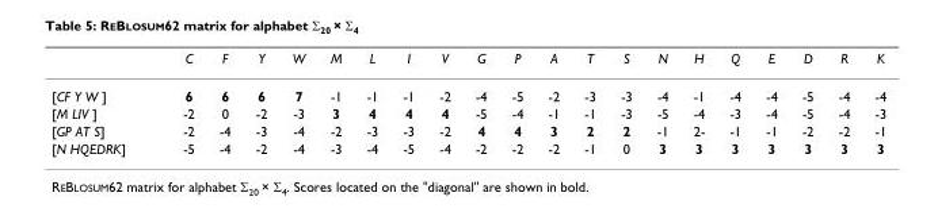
<table><thead><tr><td></td><td>C</td><td>F</td><td>Y</td><td>W</td><td>M</td><td>L</td><td>I</td><td>V</td><td>G</td><td>P</td><td>A</td><td>T</td><td>S</td><td>N</td><td>H</td><td>Q</td><td>E</td><td>D</td><td>R</td><td>K</td></tr></thead><tbody><tr><td>[CF Y W ]</td><td>6</td><td>6</td><td>6</td><td>7</td><td>-1</td><td>-1</td><td>-1</td><td>-2</td><td>-4</td><td>-5</td><td>-2</td><td>-3</td><td>-3</td><td>-4</td><td>-1</td><td>-4</td><td>-4</td><td>-5</td><td>-4</td><td>-4</td></tr><tr><td>[M LIV ]</td><td>-2</td><td>0</td><td>-2</td><td>-3</td><td>3</td><td>4</td><td>4</td><td>4</td><td>-5</td><td>-4</td><td>-1</td><td>-1</td><td>-3</td><td>-5</td><td>-4</td><td>-3</td><td>-4</td><td>-5</td><td>-4</td><td>-3</td></tr><tr><td>[GP AT S]</td><td>-2</td><td>-4</td><td>-3</td><td>-4</td><td>-2</td><td>-3</td><td>-3</td><td>-2</td><td>4</td><td>4</td><td>3</td><td>2</td><td>2</td><td>-1</td><td>2-</td><td>-1</td><td>-1</td><td>-2</td><td>-2</td><td>-1</td></tr><tr><td>[N HQEDRK]</td><td>-5</td><td>-4</td><td>-2</td><td>-4</td><td>-3</td><td>-4</td><td>-5</td><td>-4</td><td>-2</td><td>-2</td><td>-2</td><td>-1</td><td>0</td><td>3</td><td>3</td><td>3</td><td>3</td><td>3</td><td>3</td><td>3</td></tr></tbody></table>